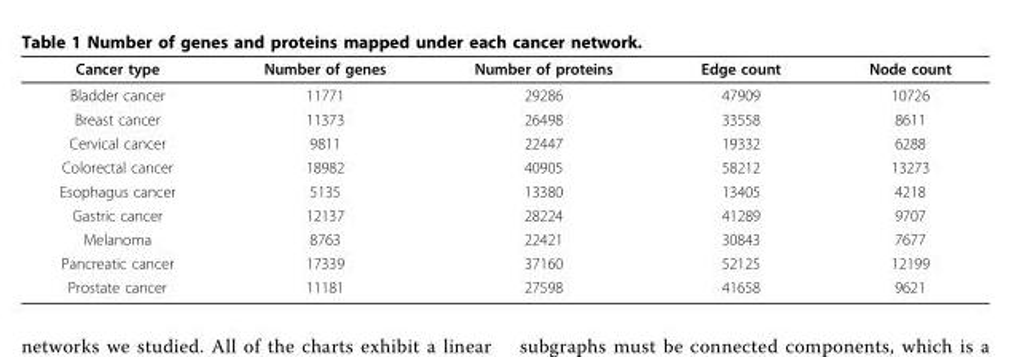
<table><thead><tr><td>Cancer type</td><td>Number of genes</td><td>Number of proteins</td><td>Edge count</td><td>Node count</td></tr></thead><tbody><tr><td>Bladder cancer</td><td>11771</td><td>29286</td><td>47909</td><td>10726</td></tr><tr><td>Breast cancer</td><td>11373</td><td>26498</td><td>33558</td><td>8611</td></tr><tr><td>Cervical cancer</td><td>9811</td><td>22447</td><td>19332</td><td>6288</td></tr><tr><td>Colorectal cancer</td><td>18982</td><td>40905</td><td>58212</td><td>13273</td></tr><tr><td>Esophagus cancer</td><td>5135</td><td>13380</td><td>13405</td><td>4218</td></tr><tr><td>Gastric cancer</td><td>12137</td><td>28224</td><td>41289</td><td>9707</td></tr><tr><td>Melanoma</td><td>8763</td><td>22421</td><td>30843</td><td>7677</td></tr><tr><td>Pancreatic cancer</td><td>17339</td><td>37160</td><td>52125</td><td>12199</td></tr><tr><td>Prostate cancer</td><td>11181</td><td>27598</td><td>41658</td><td>9621</td></tr></tbody></table>